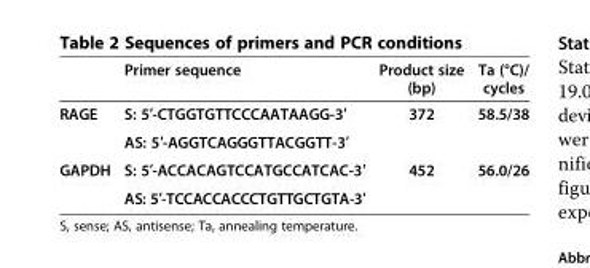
<table><thead><tr><td></td><td>Primer sequence</td><td>Product size (bp)</td><td>Ta (°C)/ cycles</td></tr></thead><tbody><tr><td rowspan="2">RAGE</td><td>S: 5′-CTGGTGTTCCCAATAAGG-3′</td><td>372</td><td>58.5/38</td></tr><tr><td>AS: 5′-AGGTCAGGGTTACGGTT-3′</td><td></td><td></td></tr><tr><td rowspan="2">GAPDH</td><td>S: 5′-ACCACAGTCCATGCCATCAC-3′</td><td>452</td><td>56.0/26</td></tr><tr><td>AS: 5′-TCCACCACCCTGTTGCTGTA-3′</td><td></td><td></td></tr></tbody></table>